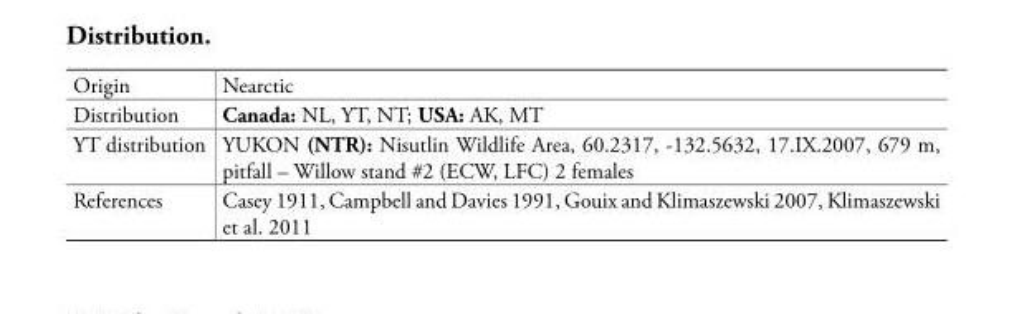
<table><tbody><tr><td>Origin</td><td>Nearctic</td></tr><tr><td>Distribution</td><td>Canada: NL, YT, NT; USA: AK, MT</td></tr><tr><td>YT distribution</td><td>YUKON (NTR): Nisutlin Wildlife Area, 60.2317, -132.5632, 17.IX.2007, 679 m, pitfall – Willow stand #2 (ECW, LFC) 2 females</td></tr><tr><td>References</td><td>Casey 1911, Campbell and Davies 1991, Gouix and Klimaszewski 2007, Klimaszewski et al. 2011</td></tr></tbody></table>